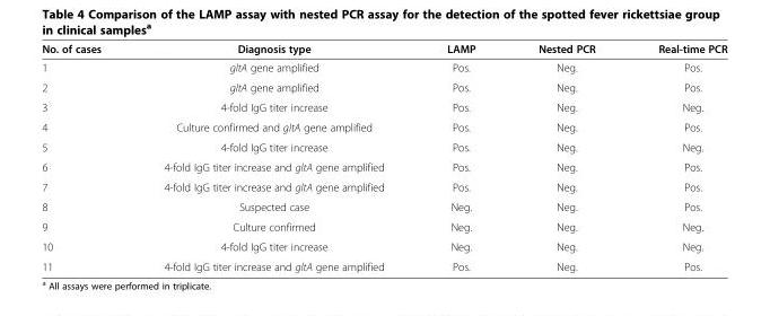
<table><thead><tr><td>No. of cases</td><td>Diagnosis type</td><td>LAMP</td><td>Nested PCR</td><td>Real-time PCR</td></tr></thead><tbody><tr><td>1</td><td>gltA gene amplified</td><td>Pos.</td><td>Neg.</td><td>Pos.</td></tr><tr><td>2</td><td>gltA gene amplified</td><td>Pos.</td><td>Neg.</td><td>Pos.</td></tr><tr><td>3</td><td>4-fold IgG titer increase</td><td>Pos.</td><td>Neg.</td><td>Neg.</td></tr><tr><td>4</td><td>Culture confirmed and gltA gene amplified</td><td>Pos.</td><td>Neg.</td><td>Pos.</td></tr><tr><td>5</td><td>4-fold IgG titer increase</td><td>Pos.</td><td>Neg.</td><td>Neg.</td></tr><tr><td>6</td><td>4-fold IgG titer increase and gltA gene amplified</td><td>Pos.</td><td>Neg.</td><td>Pos.</td></tr><tr><td>7</td><td>4-fold IgG titer increase and gltA gene amplified</td><td>Pos.</td><td>Neg.</td><td>Pos.</td></tr><tr><td>8</td><td>Suspected case</td><td>Neg.</td><td>Neg.</td><td>Pos.</td></tr><tr><td>9</td><td>Culture confirmed</td><td>Neg.</td><td>Neg.</td><td>Neg.</td></tr><tr><td>10</td><td>4-fold IgG titer increase</td><td>Neg.</td><td>Neg.</td><td>Neg.</td></tr><tr><td>11</td><td>4-fold IgG titer increase and gltA gene amplified</td><td>Pos.</td><td>Neg.</td><td>Pos.</td></tr></tbody></table>